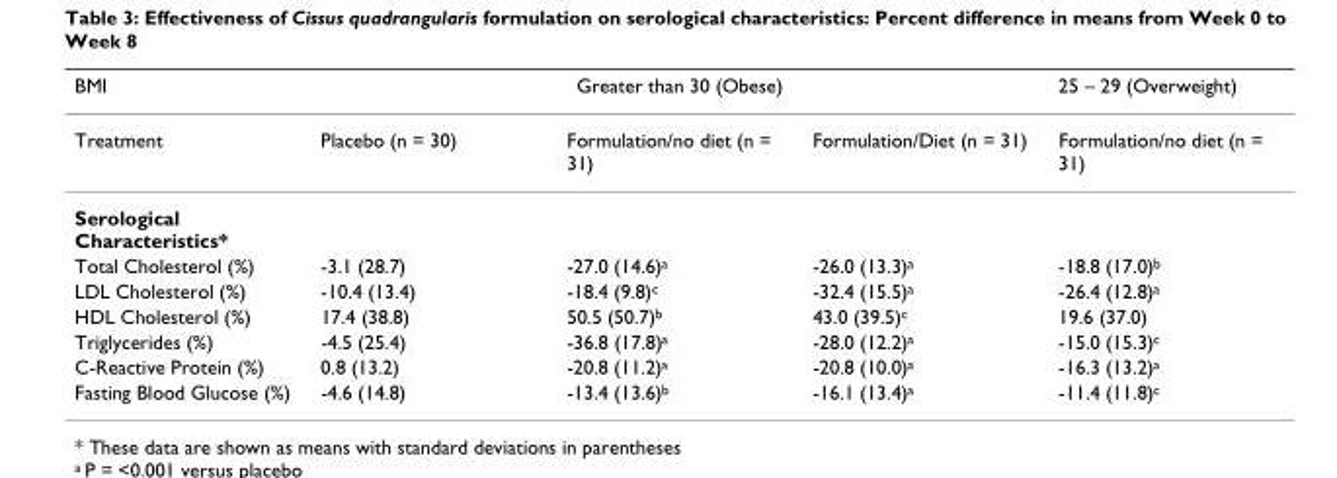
<table><thead><tr><td rowspan="2">BMI Treatment</td><td colspan="3">Greater than 30 (Obese)</td><td rowspan="2">25 – 29 (Overweight) Formulation/no diet (n = 31)</td></tr><tr><td>Placebo (n = 30)</td><td>Formulation/no diet (n = 31)</td><td>Formulation/Diet (n = 31)</td></tr></thead><tbody><tr><td colspan="5">Serological Characteristics*</td></tr><tr><td>Total Cholesterol (%)</td><td>-3.1 (28.7)</td><td>-27.0 (14.6)<sup>a</sup></td><td>-26.0 (13.3)<sup>a</sup></td><td>-18.8 (17.0)<sup>b</sup></td></tr><tr><td>LDL Cholesterol (%)</td><td>-10.4 (13.4)</td><td>-18.4 (9.8)<sup>c</sup></td><td>-32.4 (15.5)<sup>a</sup></td><td>-26.4 (12.8)<sup>a</sup></td></tr><tr><td>HDL Cholesterol (%)</td><td>17.4 (38.8)</td><td>50.5 (50.7)<sup>b</sup></td><td>43.0 (39.5)<sup>c</sup></td><td>19.6 (37.0)</td></tr><tr><td>Triglycerides (%)</td><td>-4.5 (25.4)</td><td>-36.8 (17.8)<sup>a</sup></td><td>-28.0 (12.2)<sup>a</sup></td><td>-15.0 (15.3)<sup>c</sup></td></tr><tr><td>C-Reactive Protein (%)</td><td>0.8 (13.2)</td><td>-20.8 (11.2)<sup>a</sup></td><td>-20.8 (10.0)<sup>a</sup></td><td>-16.3 (13.2)<sup>a</sup></td></tr><tr><td>Fasting Blood Glucose (%)</td><td>-4.6 (14.8)</td><td>-13.4 (13.6)<sup>b</sup></td><td>-16.1 (13.4)<sup>a</sup></td><td>-11.4 (11.8)<sup>c</sup></td></tr></tbody></table>